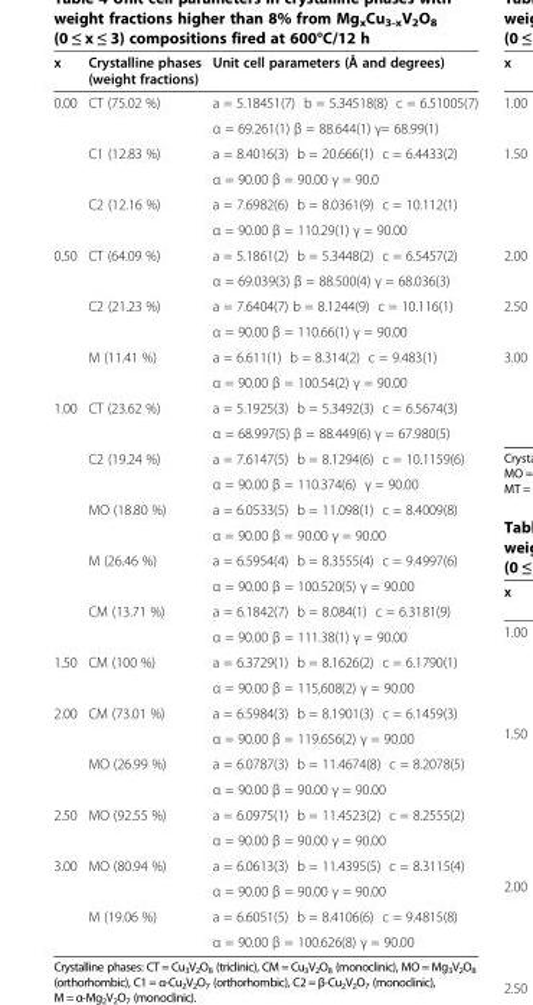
<table><thead><tr><td>x</td><td>Crystalline phases (weight fractions)</td><td>Unit cell parameters (Å and degrees)</td></tr></thead><tbody><tr><td rowspan="6">0.00</td><td rowspan="2">CT (75.02 %)</td><td>a = 5.18451(7) b = 5.34518(8) c = 6.51005(7)</td></tr><tr><td>α = 69.261(1) β = 88.644(1) γ= 68.99(1)</td></tr><tr><td rowspan="2">C1 (12.83 %)</td><td>a = 8.4016(3) b = 20.666(1) c = 6.4433(2)</td></tr><tr><td>α = 90.00 β = 90.00 γ = 90.0</td></tr><tr><td rowspan="2">C2 (12.16 %)</td><td>a = 7.6982(6) b = 8.0361(9) c = 10.112(1)</td></tr><tr><td>α = 90.00 β = 110.29(1) γ = 90.00</td></tr><tr><td rowspan="6">0.50</td><td rowspan="2">CT (64.09 %)</td><td>a = 5.1861(2) b = 5.3448(2) c = 6.5457(2)</td></tr><tr><td>α = 69.039(3) β = 88.500(4) γ = 68.036(3)</td></tr><tr><td rowspan="2">C2 (21.23 %)</td><td>a = 7.6404(7) b = 8.1244(9) c = 10.116(1)</td></tr><tr><td>α = 90.00 β = 110.66(1) γ = 90.00</td></tr><tr><td rowspan="2">M (11.41 %)</td><td>a = 6.611(1) b = 8.314(2) c = 9.483(1)</td></tr><tr><td>α = 90.00 β = 100.54(2) γ = 90.00</td></tr><tr><td rowspan="10">1.00</td><td rowspan="2">CT (23.62 %)</td><td>a = 5.1925(3) b = 5.3492(3) c = 6.5674(3)</td></tr><tr><td>α = 68.997(5) β = 88.449(6) γ = 67.980(5)</td></tr><tr><td rowspan="2">C2 (19.24 %)</td><td>a = 7.6147(5) b = 8.1294(6) c = 10.1159(6)</td></tr><tr><td>α = 90.00 β = 110.374(6) γ = 90.00</td></tr><tr><td rowspan="2">MO (18.80 %)</td><td>a = 6.0533(5) b = 11.098(1) c = 8.4009(8)</td></tr><tr><td>α = 90.00 β = 90.00 γ = 90.00</td></tr><tr><td rowspan="2">M (26.46 %)</td><td>a = 6.5954(4) b = 8.3555(4) c = 9.4997(6)</td></tr><tr><td>α = 90.00 β = 100.520(5) γ = 90.00</td></tr><tr><td rowspan="2">CM (13.71 %)</td><td>a = 6.1842(7) b = 8.084(1) c = 6.3181(9)</td></tr><tr><td>α = 90.00 β = 111.38(1) γ = 90.00</td></tr><tr><td rowspan="2">1.50</td><td rowspan="2">CM (100 %)</td><td>a = 6.3729(1) b = 8.1626(2) c = 6.1790(1)</td></tr><tr><td>α = 90.00 β = 115,608(2) γ = 90.00</td></tr><tr><td rowspan="4">2.00</td><td rowspan="2">CM (73.01 %)</td><td>a = 6.5984(3) b = 8.1901(3) c = 6.1459(3)</td></tr><tr><td>α = 90.00 β = 119.656(2) γ = 90.00</td></tr><tr><td rowspan="2">MO (26.99 %)</td><td>a = 6.0787(3) b = 11.4674(8) c = 8.2078(5)</td></tr><tr><td>α = 90.00 β = 90.00 γ = 90.00</td></tr><tr><td rowspan="2">2.50</td><td rowspan="2">MO (92.55 %)</td><td>a = 6.0975(1) b = 11.4523(2) c = 8.2555(2)</td></tr><tr><td>α = 90.00 β = 90.00 γ = 90.00</td></tr><tr><td rowspan="4">3.00</td><td rowspan="2">MO (80.94 %)</td><td>a = 6.0613(3) b = 11.4395(5) c = 8.3115(4)</td></tr><tr><td>α = 90.00 β = 90.00 γ = 90.00</td></tr><tr><td rowspan="2">M (19.06 %)</td><td>a = 6.6051(5) b = 8.4106(6) c = 9.4815(8)</td></tr><tr><td>α = 90.00 β = 100.626(8) γ = 90.00</td></tr></tbody></table>